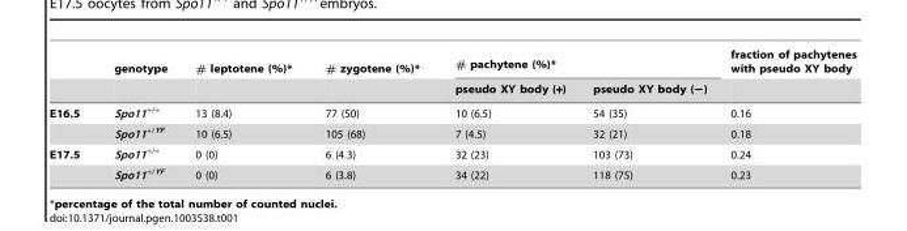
<table><thead><tr><td rowspan="2"></td><td rowspan="2">genotype</td><td rowspan="2"># leptotene (%)*</td><td rowspan="2"># zygotene (%)*</td><td colspan="2"># pachytene (%)*</td><td rowspan="2">fraction of pachytenes with pseudo XY body</td></tr><tr><td>pseudo XY body (+)</td><td>pseudo XY body (−)</td></tr></thead><tbody><tr><td rowspan="2">E16.5</td><td>Spo11<sup>+/+</sup></td><td>13 (8.4)</td><td>77 (50)</td><td>10 (6.5)</td><td>54 (35)</td><td>0.16</td></tr><tr><td>Spo11<sup>+/YF</sup></td><td>10 (6.5)</td><td>105 (68)</td><td>7 (4.5)</td><td>32 (21)</td><td>0.18</td></tr><tr><td rowspan="2">E17.5</td><td>Spo11<sup>+/+</sup></td><td>0 (0)</td><td>6 (4.3)</td><td>32 (23)</td><td>103 (73)</td><td>0.24</td></tr><tr><td>Spo11<sup>+/YF</sup></td><td>0 (0)</td><td>6 (3.8)</td><td>34 (22)</td><td>118 (75)</td><td>0.23</td></tr></tbody></table>